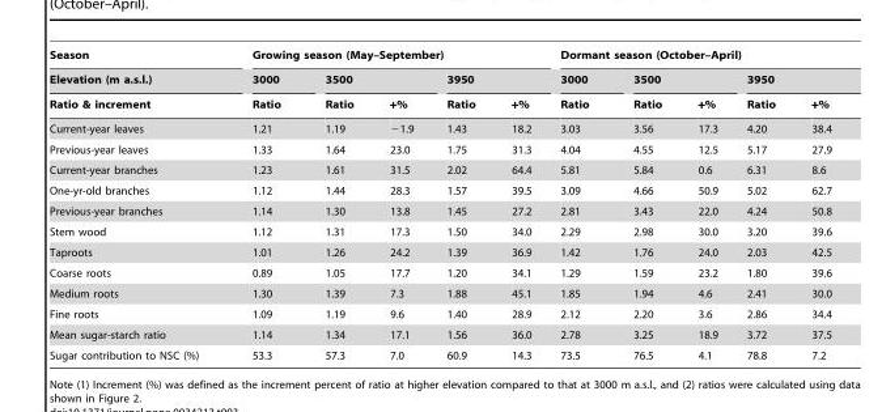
<table><thead><tr><td rowspan="3">Season Elevation (m a.s.l.) Ratio &amp; increment</td><td colspan="5">Growing season (May–September)</td><td colspan="5">Dormant season (October–April)</td></tr><tr><td rowspan="2">3000 Ratio</td><td colspan="2">3500</td><td colspan="2">3950</td><td rowspan="2">3000 Ratio</td><td colspan="2">3500</td><td colspan="2">3950</td></tr><tr><td>Ratio</td><td>+%</td><td>Ratio</td><td>+%</td><td>Ratio</td><td>+%</td><td>Ratio</td><td>+%</td></tr></thead><tbody><tr><td>Current-year leaves</td><td>1.21</td><td>1.19</td><td>−1.9</td><td>1.43</td><td>18.2</td><td>3.03</td><td>3.56</td><td>17.3</td><td>4.20</td><td>38.4</td></tr><tr><td>Previous-year leaves</td><td>1.33</td><td>1.64</td><td>23.0</td><td>1.75</td><td>31.3</td><td>4.04</td><td>4.55</td><td>12.5</td><td>5.17</td><td>27.9</td></tr><tr><td>Current-year branches</td><td>1.23</td><td>1.61</td><td>31.5</td><td>2.02</td><td>64.4</td><td>5.81</td><td>5.84</td><td>0.6</td><td>6.31</td><td>8.6</td></tr><tr><td>One-yr-old branches</td><td>1.12</td><td>1.44</td><td>28.3</td><td>1.57</td><td>39.5</td><td>3.09</td><td>4.66</td><td>50.9</td><td>5.02</td><td>62.7</td></tr><tr><td>Previous-year branches</td><td>1.14</td><td>1.30</td><td>13.8</td><td>1.45</td><td>27.2</td><td>2.81</td><td>3.43</td><td>22.0</td><td>4.24</td><td>50.8</td></tr><tr><td>Stem wood</td><td>1.12</td><td>1.31</td><td>17.3</td><td>1.50</td><td>34.0</td><td>2.29</td><td>2.98</td><td>30.0</td><td>3.20</td><td>39.6</td></tr><tr><td>Taproots</td><td>1.01</td><td>1.26</td><td>24.2</td><td>1.39</td><td>36.9</td><td>1.42</td><td>1.76</td><td>24.0</td><td>2.03</td><td>42.5</td></tr><tr><td>Coarse roots</td><td>0.89</td><td>1.05</td><td>17.7</td><td>1.20</td><td>34.1</td><td>1.29</td><td>1.59</td><td>23.2</td><td>1.80</td><td>39.6</td></tr><tr><td>Medium roots</td><td>1.30</td><td>1.39</td><td>7.3</td><td>1.88</td><td>45.1</td><td>1.85</td><td>1.94</td><td>4.6</td><td>2.41</td><td>30.0</td></tr><tr><td>Fine roots</td><td>1.09</td><td>1.19</td><td>9.6</td><td>1.40</td><td>28.9</td><td>2.12</td><td>2.20</td><td>3.6</td><td>2.86</td><td>34.4</td></tr><tr><td>Mean sugar-starch ratio</td><td>1.14</td><td>1.34</td><td>17.1</td><td>1.56</td><td>36.0</td><td>2.78</td><td>3.25</td><td>18.9</td><td>3.72</td><td>37.5</td></tr><tr><td>Sugar contribution to NSC (%)</td><td>53.3</td><td>57.3</td><td>7.0</td><td>60.9</td><td>14.3</td><td>73.5</td><td>76.5</td><td>4.1</td><td>78.8</td><td>7.2</td></tr></tbody></table>